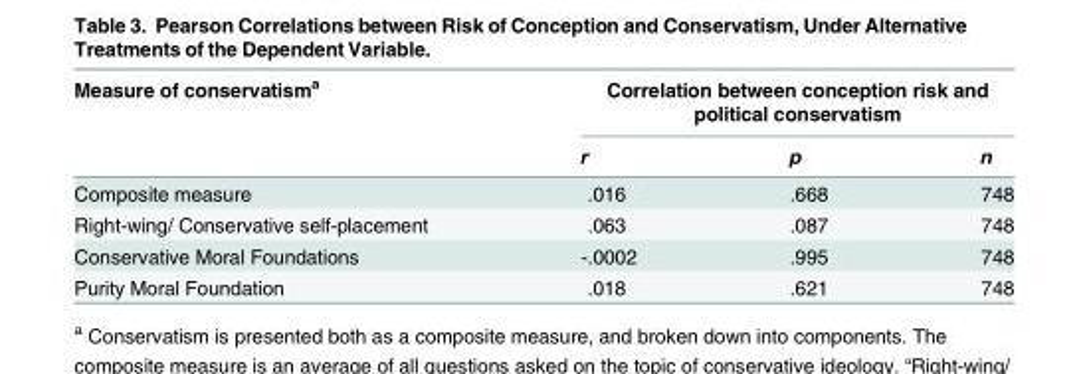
<table><thead><tr><td rowspan="2">Measure of conservatism<sup>a</sup></td><td colspan="3">Correlation between conception risk and political conservatism</td></tr><tr><td>r</td><td>p</td><td>n</td></tr></thead><tbody><tr><td>Composite measure</td><td>.016</td><td>.668</td><td>748</td></tr><tr><td>Right-wing/ Conservative self-placement</td><td>.063</td><td>.087</td><td>748</td></tr><tr><td>Conservative Moral Foundations</td><td>-.0002</td><td>.995</td><td>748</td></tr><tr><td>Purity Moral Foundation</td><td>.018</td><td>.621</td><td>748</td></tr></tbody></table>